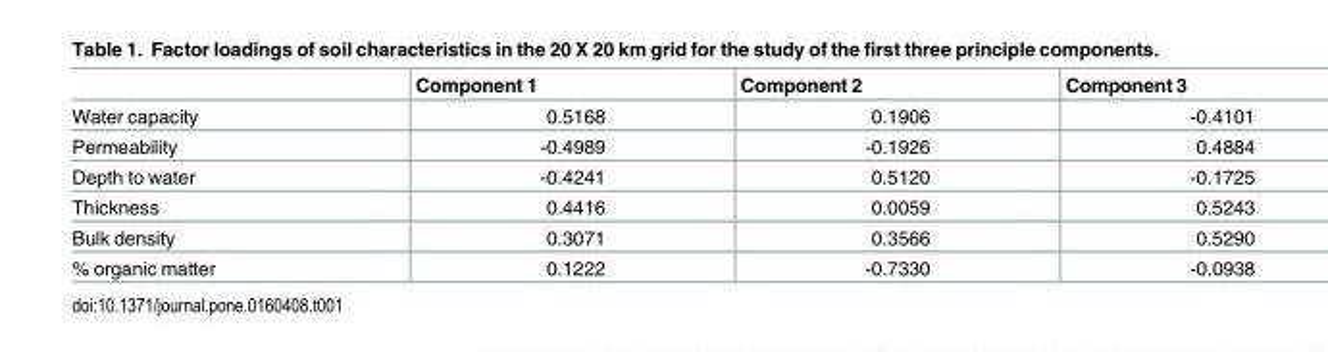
<table><thead><tr><td></td><td>Component 1</td><td>Component 2</td><td>Component 3</td></tr></thead><tbody><tr><td>Water capacity</td><td>0.5168</td><td>0.1906</td><td>-0.4101</td></tr><tr><td>Permeability</td><td>-0.4989</td><td>-0.1926</td><td>0.4884</td></tr><tr><td>Depth to water</td><td>-0.4241</td><td>0.5120</td><td>-0.1725</td></tr><tr><td>Thickness</td><td>0.4416</td><td>0.0059</td><td>0.5243</td></tr><tr><td>Bulk density</td><td>0.3071</td><td>0.3566</td><td>0.5290</td></tr><tr><td>% organic matter</td><td>0.1222</td><td>-0.7330</td><td>-0.0938</td></tr></tbody></table>